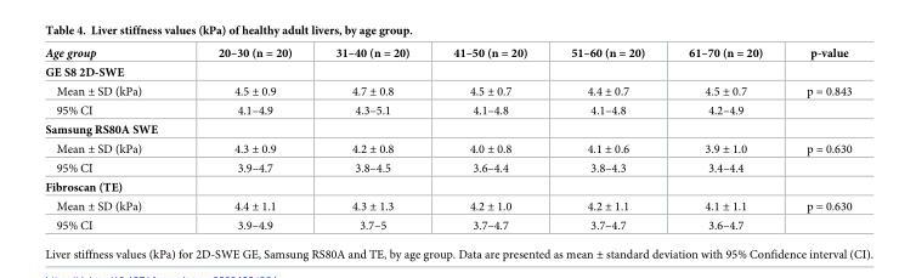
<table><thead><tr><td>Age group</td><td>20–30 (n = 20)</td><td>31–40 (n = 20)</td><td>41–50 (n = 20)</td><td>51–60 (n = 20)</td><td>61–70 (n = 20)</td><td>p-value</td></tr></thead><tbody><tr><td colspan="7">GE S8 2D-SWE</td></tr><tr><td>Mean ± SD (kPa)</td><td>4.5 ± 0.9</td><td>4.7 ± 0.8</td><td>4.5 ± 0.7</td><td>4.4 ± 0.7</td><td>4.5 ± 0.7</td><td>p = 0.843</td></tr><tr><td>95% CI</td><td>4.1–4.9</td><td>4.3–5.1</td><td>4.1–4.8</td><td>4.1–4.8</td><td>4.2–4.9</td><td></td></tr><tr><td colspan="7">Samsung RS80A SWE</td></tr><tr><td>Mean ± SD (kPa)</td><td>4.3 ± 0.9</td><td>4.2 ± 0.8</td><td>4.0 ± 0.8</td><td>4.1 ± 0.6</td><td>3.9 ± 1.0</td><td>p = 0.630</td></tr><tr><td>95% CI</td><td>3.9–4.7</td><td>3.8–4.5</td><td>3.6–4.4</td><td>3.8–4.3</td><td>3.4–4.4</td><td></td></tr><tr><td colspan="7">Fibroscan (TE)</td></tr><tr><td>Mean ± SD (kPa)</td><td>4.4 ± 1.1</td><td>4.3 ± 1.3</td><td>4.2 ± 1.0</td><td>4.2 ± 1.1</td><td>4.1 ± 1.1</td><td>p = 0.630</td></tr><tr><td>95% CI</td><td>3.9–4.9</td><td>3.7–5</td><td>3.7–4.7</td><td>3.7–4.7</td><td>3.6–4.7</td><td></td></tr></tbody></table>